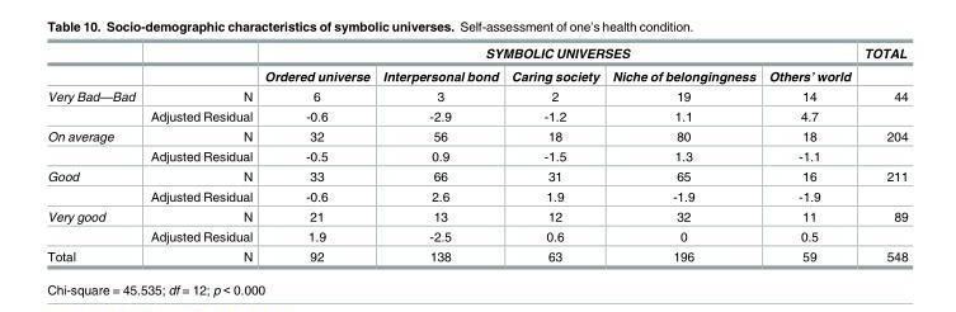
<table><thead><tr><td rowspan="2"></td><td rowspan="2"></td><td colspan="5">SYMBOLIC UNIVERSES</td><td rowspan="2">TOTAL</td></tr><tr><td>Ordered universe</td><td>Interpersonal bond</td><td>Caring society</td><td>Niche of belongingness</td><td>Others’ world</td></tr></thead><tbody><tr><td rowspan="2">Very Bad—Bad</td><td>N</td><td>6</td><td>3</td><td>2</td><td>19</td><td>14</td><td>44</td></tr><tr><td>Adjusted Residual</td><td>-0.6</td><td>-2.9</td><td>-1.2</td><td>1.1</td><td>4.7</td><td></td></tr><tr><td rowspan="2">On average</td><td>N</td><td>32</td><td>56</td><td>18</td><td>80</td><td>18</td><td>204</td></tr><tr><td>Adjusted Residual</td><td>-0.5</td><td>0.9</td><td>-1.5</td><td>1.3</td><td>-1.1</td><td></td></tr><tr><td rowspan="2">Good</td><td>N</td><td>33</td><td>66</td><td>31</td><td>65</td><td>16</td><td>211</td></tr><tr><td>Adjusted Residual</td><td>-0.6</td><td>2.6</td><td>1.9</td><td>-1.9</td><td>-1.9</td><td></td></tr><tr><td rowspan="2">Very good</td><td>N</td><td>21</td><td>13</td><td>12</td><td>32</td><td>11</td><td>89</td></tr><tr><td>Adjusted Residual</td><td>1.9</td><td>-2.5</td><td>0.6</td><td>0</td><td>0.5</td><td></td></tr><tr><td>Total</td><td>N</td><td>92</td><td>138</td><td>63</td><td>196</td><td>59</td><td>548</td></tr></tbody></table>